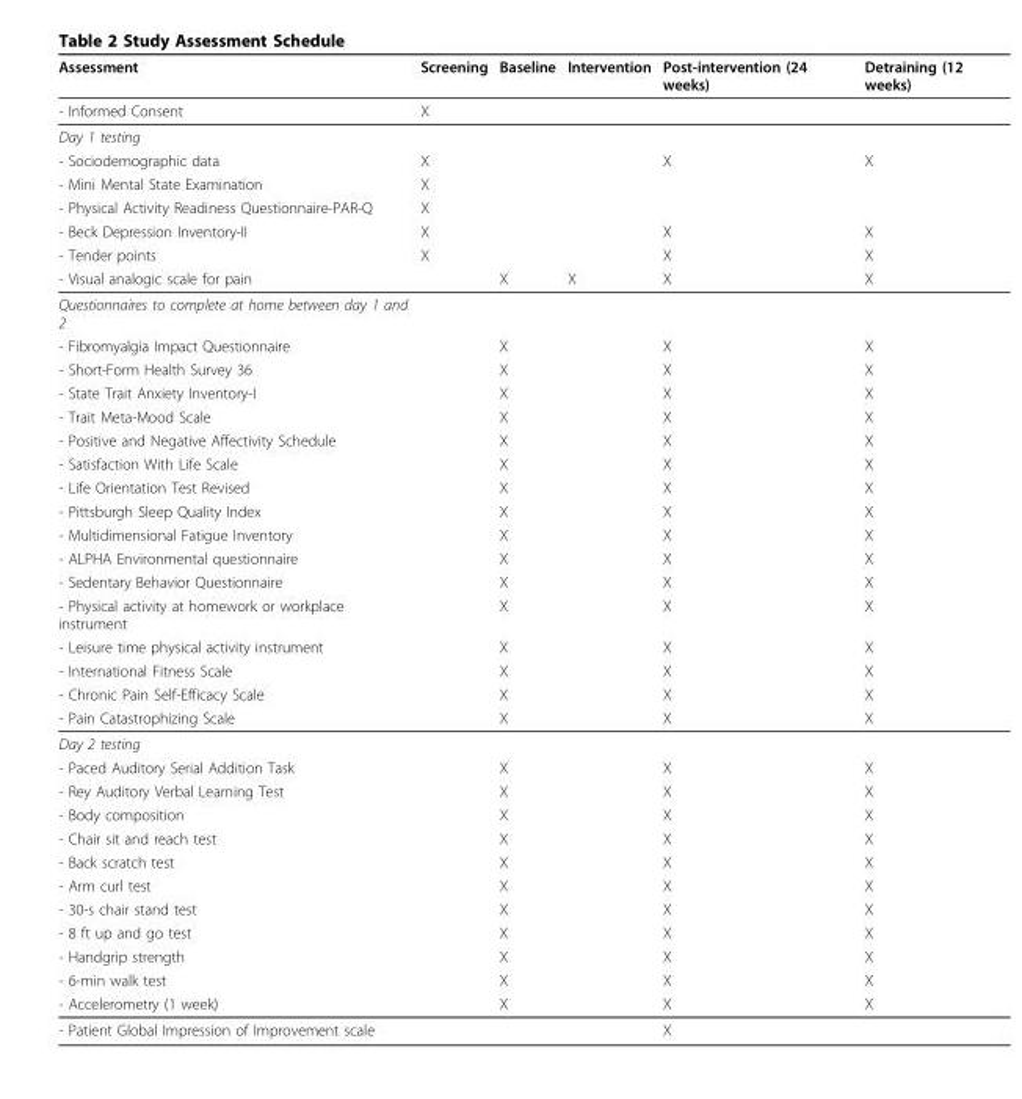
<table><thead><tr><td>Assessment</td><td>Screening</td><td>Baseline</td><td>Intervention</td><td>Post-intervention (24 weeks)</td><td>Detraining (12 weeks)</td></tr></thead><tbody><tr><td>- Informed Consent</td><td>X</td><td></td><td></td><td></td><td></td></tr><tr><td colspan="6">Day 1 testing</td></tr><tr><td>- Sociodemographic data</td><td>X</td><td></td><td></td><td>X</td><td>X</td></tr><tr><td>- Mini Mental State Examination</td><td>X</td><td></td><td></td><td></td><td></td></tr><tr><td>- Physical Activity Readiness Questionnaire-PAR-Q</td><td>X</td><td></td><td></td><td></td><td></td></tr><tr><td>- Beck Depression Inventory-II</td><td>X</td><td></td><td></td><td>X</td><td>X</td></tr><tr><td>- Tender points</td><td>X</td><td></td><td></td><td>X</td><td>X</td></tr><tr><td>- Visual analogic scale for pain</td><td></td><td>X</td><td>X</td><td>X</td><td>X</td></tr><tr><td colspan="6">Questionnaires to complete at home between day 1 and 2</td></tr><tr><td>- Fibromyalgia Impact Questionnaire</td><td></td><td>X</td><td></td><td>X</td><td>X</td></tr><tr><td>- Short-Form Health Survey 36</td><td></td><td>X</td><td></td><td>X</td><td>X</td></tr><tr><td>- State Trait Anxiety Inventory-I</td><td></td><td>X</td><td></td><td>X</td><td>X</td></tr><tr><td>- Trait Meta-Mood Scale</td><td></td><td>X</td><td></td><td>X</td><td>X</td></tr><tr><td>- Positive and Negative Affectivity Schedule</td><td></td><td>X</td><td></td><td>X</td><td>X</td></tr><tr><td>- Satisfaction With Life Scale</td><td></td><td>X</td><td></td><td>X</td><td>X</td></tr><tr><td>- Life Orientation Test Revised</td><td></td><td>X</td><td></td><td>X</td><td>X</td></tr><tr><td>- Pittsburgh Sleep Quality Index</td><td></td><td>X</td><td></td><td>X</td><td>X</td></tr><tr><td>- Multidimensional Fatigue Inventory</td><td></td><td>X</td><td></td><td>X</td><td>X</td></tr><tr><td>- ALPHA Environmental questionnaire</td><td></td><td>X</td><td></td><td>X</td><td>X</td></tr><tr><td>- Sedentary Behavior Questionnaire</td><td></td><td>X</td><td></td><td>X</td><td>X</td></tr><tr><td>- Physical activity at homework or workplace instrument</td><td></td><td>X</td><td></td><td>X</td><td>X</td></tr><tr><td>- Leisure time physical activity instrument</td><td></td><td>X</td><td></td><td>X</td><td>X</td></tr><tr><td>- International Fitness Scale</td><td></td><td>X</td><td></td><td>X</td><td>X</td></tr><tr><td>- Chronic Pain Self-Efficacy Scale</td><td></td><td>X</td><td></td><td>X</td><td>X</td></tr><tr><td>- Pain Catastrophizing Scale</td><td></td><td>X</td><td></td><td>X</td><td>X</td></tr><tr><td colspan="6">Day 2 testing</td></tr><tr><td>- Paced Auditory Serial Addition Task</td><td></td><td>X</td><td></td><td>X</td><td>X</td></tr><tr><td>- Rey Auditory Verbal Learning Test</td><td></td><td>X</td><td></td><td>X</td><td>X</td></tr><tr><td>- Body composition</td><td></td><td>X</td><td></td><td>X</td><td>X</td></tr><tr><td>- Chair sit and reach test</td><td></td><td>X</td><td></td><td>X</td><td>X</td></tr><tr><td>- Back scratch test</td><td></td><td>X</td><td></td><td>X</td><td>X</td></tr><tr><td>- Arm curl test</td><td></td><td>X</td><td></td><td>X</td><td>X</td></tr><tr><td>- 30-s chair stand test</td><td></td><td>X</td><td></td><td>X</td><td>X</td></tr><tr><td>- 8 ft up and go test</td><td></td><td>X</td><td></td><td>X</td><td>X</td></tr><tr><td>- Handgrip strength</td><td></td><td>X</td><td></td><td>X</td><td>X</td></tr><tr><td>- 6-min walk test</td><td></td><td>X</td><td></td><td>X</td><td>X</td></tr><tr><td>- Accelerometry (1 week)</td><td></td><td>X</td><td></td><td>X</td><td>X</td></tr><tr><td>- Patient Global Impression of Improvement scale</td><td></td><td></td><td></td><td>X</td><td></td></tr></tbody></table>